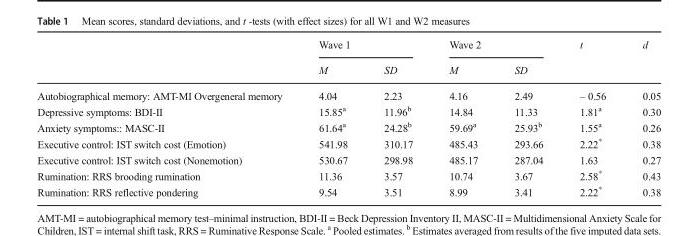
<table><thead><tr><td rowspan="2"></td><td colspan="2">Wave 1</td><td colspan="2">Wave 2</td><td rowspan="2">t</td><td rowspan="2">d</td></tr><tr><td>M</td><td>SD</td><td>M</td><td>SD</td></tr></thead><tbody><tr><td>Autobiographical memory: AMT-MI Overgeneral memory</td><td>4.04</td><td>2.23</td><td>4.16</td><td>2.49</td><td>– 0.56</td><td>0.05</td></tr><tr><td>Depressive symptoms: BDI-II</td><td>15.85<sup>a</sup></td><td>11.96<sup>b</sup></td><td>14.84</td><td>11.33</td><td>1.81<sup>a</sup></td><td>0.30</td></tr><tr><td>Anxiety symptoms:: MASC-II</td><td>61.64<sup>a</sup></td><td>24.28<sup>b</sup></td><td>59.69<sup>a</sup></td><td>25.93<sup>b</sup></td><td>1.55<sup>a</sup></td><td>0.26</td></tr><tr><td>Executive control: IST switch cost (Emotion)</td><td>541.98</td><td>310.17</td><td>485.43</td><td>293.66</td><td>2.22*</td><td>0.38</td></tr><tr><td>Executive control: IST switch cost (Nonemotion)</td><td>530.67</td><td>298.98</td><td>485.17</td><td>287.04</td><td>1.63</td><td>0.27</td></tr><tr><td>Rumination: RRS brooding rumination</td><td>11.36</td><td>3.57</td><td>10.74</td><td>3.67</td><td>2.58*</td><td>0.43</td></tr><tr><td>Rumination: RRS reflective pondering</td><td>9.54</td><td>3.51</td><td>8.99</td><td>3.41</td><td>2.22*</td><td>0.38</td></tr></tbody></table>